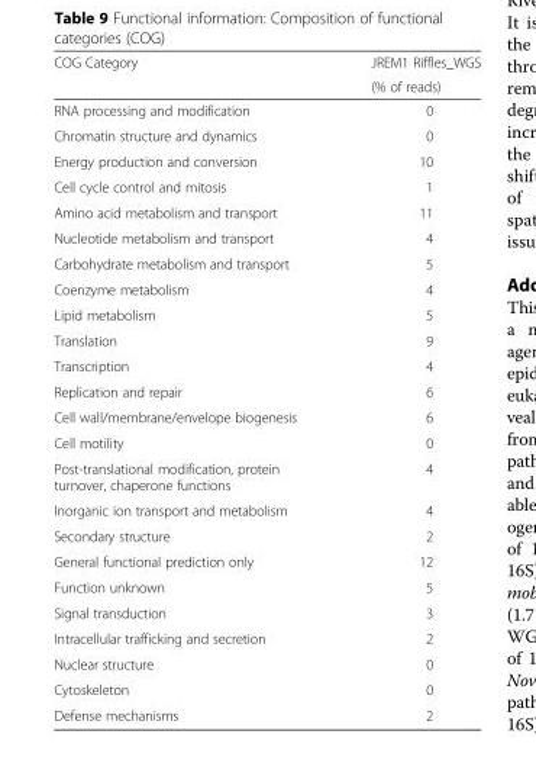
<table><thead><tr><td rowspan="2">COG Category</td><td rowspan="2">JREM1 Riffles_WGS (% of reads)</td></tr><tr></tr></thead><tbody><tr><td>RNA processing and modification</td><td>0</td></tr><tr><td>Chromatin structure and dynamics</td><td>0</td></tr><tr><td>Energy production and conversion</td><td>10</td></tr><tr><td>Cell cycle control and mitosis</td><td>1</td></tr><tr><td>Amino acid metabolism and transport</td><td>11</td></tr><tr><td>Nucleotide metabolism and transport</td><td>4</td></tr><tr><td>Carbohydrate metabolism and transport</td><td>5</td></tr><tr><td>Coenzyme metabolism</td><td>4</td></tr><tr><td>Lipid metabolism</td><td>5</td></tr><tr><td>Translation</td><td>9</td></tr><tr><td>Transcription</td><td>4</td></tr><tr><td>Replication and repair</td><td>6</td></tr><tr><td>Cell wall/membrane/envelope biogenesis</td><td>6</td></tr><tr><td>Cell motility</td><td>0</td></tr><tr><td>Post-translational modification, protein turnover, chaperone functions</td><td>4</td></tr><tr><td>Inorganic ion transport and metabolism</td><td>4</td></tr><tr><td>Secondary structure</td><td>2</td></tr><tr><td>General functional prediction only</td><td>12</td></tr><tr><td>Function unknown</td><td>5</td></tr><tr><td>Signal transduction</td><td>3</td></tr><tr><td>Intracellular trafficking and secretion</td><td>2</td></tr><tr><td>Nuclear structure</td><td>0</td></tr><tr><td>Cytoskeleton</td><td>0</td></tr><tr><td>Defense mechanisms</td><td>2</td></tr></tbody></table>